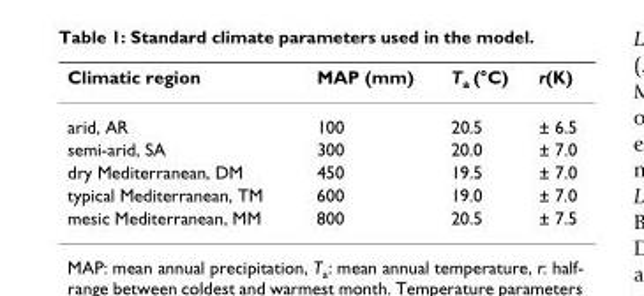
<table><thead><tr><td>Climatic region</td><td>MAP (mm)</td><td>Ta (°C)</td><td>r(K)</td></tr></thead><tbody><tr><td>arid, AR</td><td>100</td><td>20.5</td><td>± 6.5</td></tr><tr><td>semi-arid, SA</td><td>300</td><td>20.0</td><td>± 7.0</td></tr><tr><td>dry Mediterranean, DM</td><td>450</td><td>19.5</td><td>± 7.0</td></tr><tr><td>typical Mediterranean, TM</td><td>600</td><td>19.0</td><td>± 7.0</td></tr><tr><td>mesic Mediterranean, MM</td><td>800</td><td>20.5</td><td>± 7.5</td></tr></tbody></table>